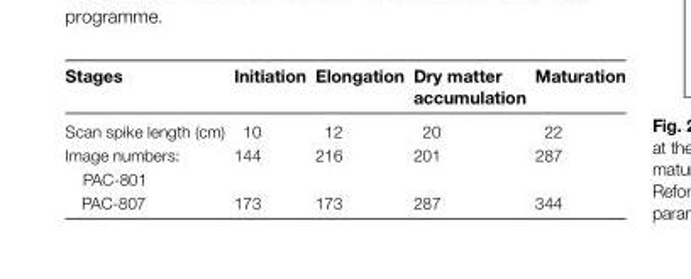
<table><thead><tr><td>Stages</td><td>Initiation</td><td>Elongation</td><td>Dry matter accumulation</td><td>Maturation</td></tr></thead><tbody><tr><td>Scan spike length (cm)</td><td>10</td><td>12</td><td>20</td><td>22</td></tr><tr><td>Image numbers: PAC-801</td><td>144</td><td>216</td><td>201</td><td>287</td></tr><tr><td>PAC-807</td><td>173</td><td>173</td><td>287</td><td>344</td></tr></tbody></table>